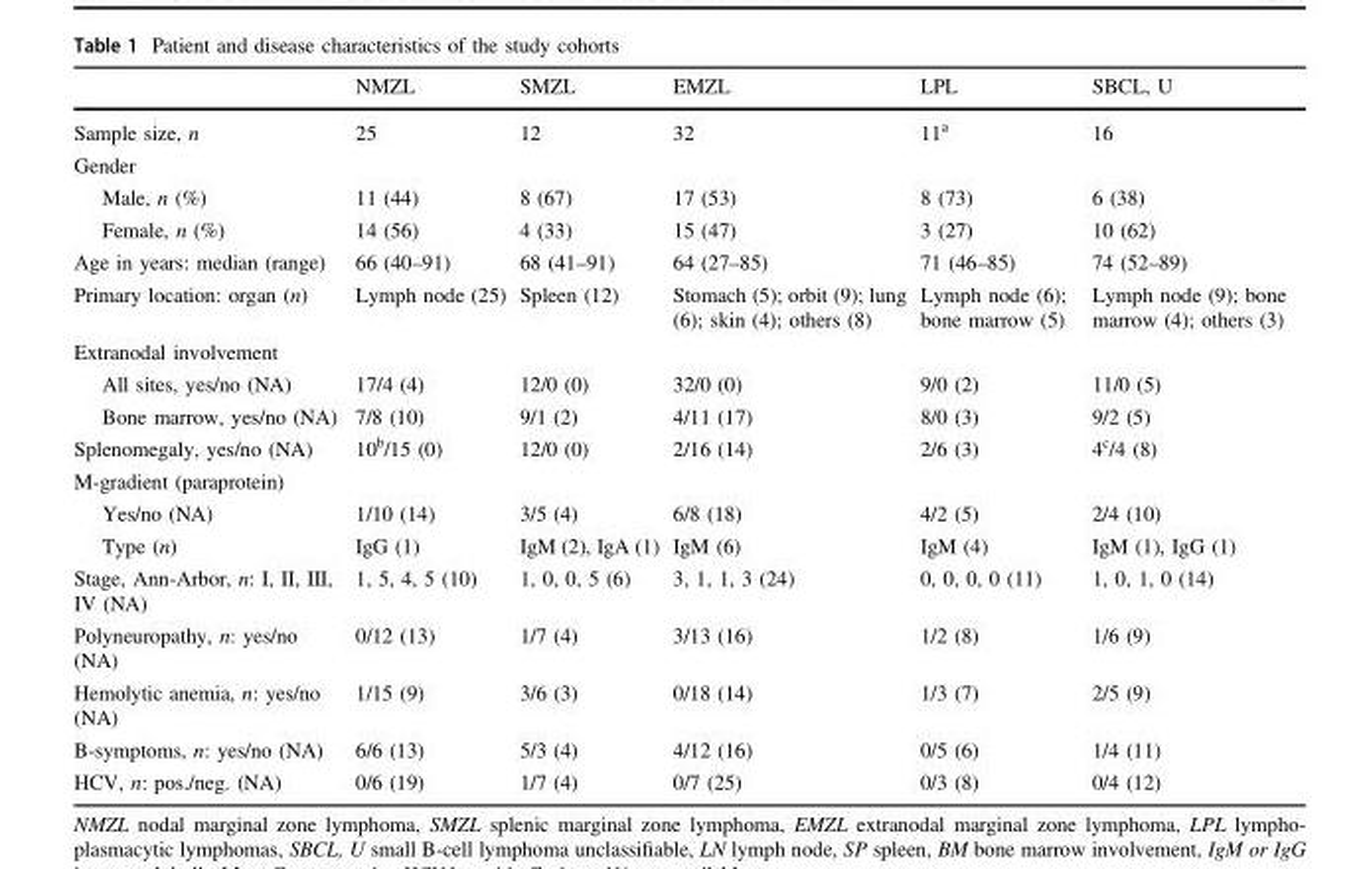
<table><thead><tr><td></td><td>NMZL</td><td>SMZL</td><td>EMZL</td><td>LPL</td><td>SBCL, U</td></tr></thead><tbody><tr><td>Sample size, n</td><td>25</td><td>12</td><td>32</td><td>11<sup>a</sup></td><td>16</td></tr><tr><td colspan="6">Gender</td></tr><tr><td>Male, n (%)</td><td>11 (44)</td><td>8 (67)</td><td>17 (53)</td><td>8 (73)</td><td>6 (38)</td></tr><tr><td>Female, n (%)</td><td>14 (56)</td><td>4 (33)</td><td>15 (47)</td><td>3 (27)</td><td>10 (62)</td></tr><tr><td>Age in years: median (range)</td><td>66 (40–91)</td><td>68 (41–91)</td><td>64 (27–85)</td><td>71 (46–85)</td><td>74 (52–89)</td></tr><tr><td>Primary location: organ (n)</td><td>Lymph node (25)</td><td>Spleen (12)</td><td>Stomach (5); orbit (9); lung (6); skin (4); others (8)</td><td>Lymph node (6); bone marrow (5)</td><td>Lymph node (9); bone marrow (4); others (3)</td></tr><tr><td colspan="6">Extranodal involvement</td></tr><tr><td>All sites, yes/no (NA)</td><td>17/4 (4)</td><td>12/0 (0)</td><td>32/0 (0)</td><td>9/0 (2)</td><td>11/0 (5)</td></tr><tr><td>Bone marrow, yes/no (NA)</td><td>7/8 (10)</td><td>9/1 (2)</td><td>4/11 (17)</td><td>8/0 (3)</td><td>9/2 (5)</td></tr><tr><td>Splenomegaly, yes/no (NA)</td><td>10<sup>b</sup>/15 (0)</td><td>12/0 (0)</td><td>2/16 (14)</td><td>2/6 (3)</td><td>4<sup>c</sup>/4 (8)</td></tr><tr><td colspan="6">M-gradient (paraprotein)</td></tr><tr><td>Yes/no (NA)</td><td>1/10 (14)</td><td>3/5 (4)</td><td>6/8 (18)</td><td>4/2 (5)</td><td>2/4 (10)</td></tr><tr><td>Type (n)</td><td>IgG (1)</td><td>IgM (2), IgA (1)</td><td>IgM (6)</td><td>IgM (4)</td><td>IgM (1), IgG (1)</td></tr><tr><td>Stage, Ann-Arbor, n: I, II, III, IV (NA)</td><td>1, 5, 4, 5 (10)</td><td>1, 0, 0, 5 (6)</td><td>3, 1, 1, 3 (24)</td><td>0, 0, 0, 0 (11)</td><td>1, 0, 1, 0 (14)</td></tr><tr><td>Polyneuropathy, n: yes/no (NA)</td><td>0/12 (13)</td><td>1/7 (4)</td><td>3/13 (16)</td><td>1/2 (8)</td><td>1/6 (9)</td></tr><tr><td>Hemolytic anemia, n: yes/no (NA)</td><td>1/15 (9)</td><td>3/6 (3)</td><td>0/18 (14)</td><td>1/3 (7)</td><td>2/5 (9)</td></tr><tr><td>B-symptoms, n: yes/no (NA)</td><td>6/6 (13)</td><td>5/3 (4)</td><td>4/12 (16)</td><td>0/5 (6)</td><td>1/4 (11)</td></tr><tr><td>HCV, n: pos./neg. (NA)</td><td>0/6 (19)</td><td>1/7 (4)</td><td>0/7 (25)</td><td>0/3 (8)</td><td>0/4 (12)</td></tr></tbody></table>